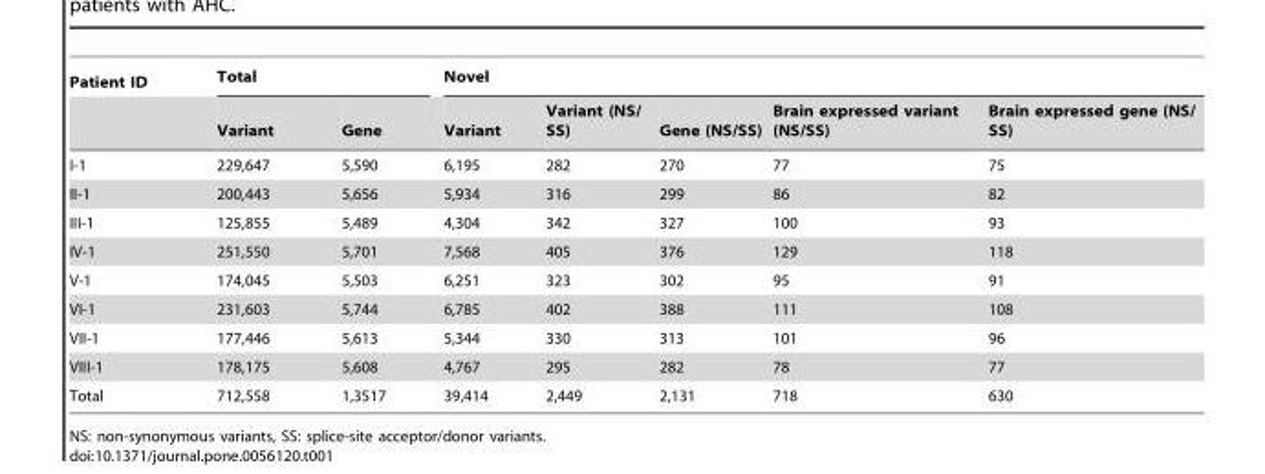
<table><thead><tr><td rowspan="2">Patient ID</td><td colspan="2">Total</td><td colspan="5">Novel</td></tr><tr><td>Variant</td><td>Gene</td><td>Variant</td><td>Variant (NS/ SS)</td><td>Gene (NS/SS)</td><td>Brain expressed variant (NS/SS)</td><td>Brain expressed gene (NS/ SS)</td></tr></thead><tbody><tr><td>I-1</td><td>229,647</td><td>5,590</td><td>6,195</td><td>282</td><td>270</td><td>77</td><td>75</td></tr><tr><td>II-1</td><td>200,443</td><td>5,656</td><td>5,934</td><td>316</td><td>299</td><td>86</td><td>82</td></tr><tr><td>III-1</td><td>125,855</td><td>5,489</td><td>4,304</td><td>342</td><td>327</td><td>100</td><td>93</td></tr><tr><td>IV-1</td><td>251,550</td><td>5,701</td><td>7,568</td><td>405</td><td>376</td><td>129</td><td>118</td></tr><tr><td>V-1</td><td>174,045</td><td>5,503</td><td>6,251</td><td>323</td><td>302</td><td>95</td><td>91</td></tr><tr><td>VI-1</td><td>231,603</td><td>5,744</td><td>6,785</td><td>402</td><td>388</td><td>111</td><td>108</td></tr><tr><td>VII-1</td><td>177,446</td><td>5,613</td><td>5,344</td><td>330</td><td>313</td><td>101</td><td>96</td></tr><tr><td>VIII-1</td><td>178,175</td><td>5,608</td><td>4,767</td><td>295</td><td>282</td><td>78</td><td>77</td></tr><tr><td>Total</td><td>712,558</td><td>1,3517</td><td>39,414</td><td>2,449</td><td>2,131</td><td>718</td><td>630</td></tr></tbody></table>